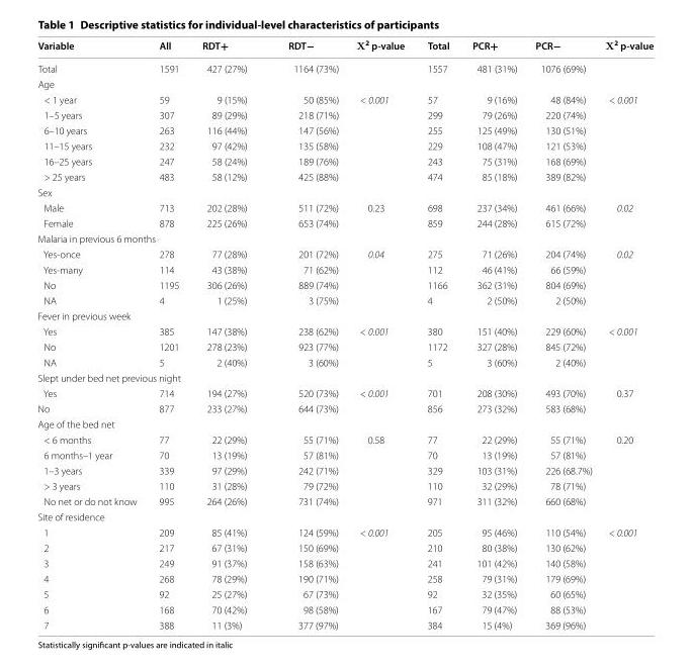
<table><thead><tr><td>Variable</td><td>All</td><td>RDT+</td><td>RDT−</td><td>Χ<sup>2</sup> p-value</td><td>Total</td><td>PCR+</td><td>PCR−</td><td>Χ<sup>2</sup> p-value</td></tr></thead><tbody><tr><td>Total</td><td>1591</td><td>427 (27%)</td><td>1164 (73%)</td><td></td><td>1557</td><td>481 (31%)</td><td>1076 (69%)</td><td></td></tr><tr><td colspan="9">Age</td></tr><tr><td>&lt; 1 year</td><td>59</td><td>9 (15%)</td><td>50 (85%)</td><td>&lt; 0.001</td><td>57</td><td>9 (16%)</td><td>48 (84%)</td><td>&lt; 0.001</td></tr><tr><td>1–5 years</td><td>307</td><td>89 (29%)</td><td>218 (71%)</td><td></td><td>299</td><td>79 (26%)</td><td>220 (74%)</td><td></td></tr><tr><td>6–10 years</td><td>263</td><td>116 (44%)</td><td>147 (56%)</td><td></td><td>255</td><td>125 (49%)</td><td>130 (51%)</td><td></td></tr><tr><td>11–15 years</td><td>232</td><td>97 (42%)</td><td>135 (58%)</td><td></td><td>229</td><td>108 (47%)</td><td>121 (53%)</td><td></td></tr><tr><td>16–25 years</td><td>247</td><td>58 (24%)</td><td>189 (76%)</td><td></td><td>243</td><td>75 (31%)</td><td>168 (69%)</td><td></td></tr><tr><td>&gt; 25 years</td><td>483</td><td>58 (12%)</td><td>425 (88%)</td><td></td><td>474</td><td>85 (18%)</td><td>389 (82%)</td><td></td></tr><tr><td colspan="9">Sex</td></tr><tr><td>Male</td><td>713</td><td>202 (28%)</td><td>511 (72%)</td><td>0.23</td><td>698</td><td>237 (34%)</td><td>461 (66%)</td><td>0.02</td></tr><tr><td>Female</td><td>878</td><td>225 (26%)</td><td>653 (74%)</td><td></td><td>859</td><td>244 (28%)</td><td>615 (72%)</td><td></td></tr><tr><td colspan="9">Malaria in previous 6 months</td></tr><tr><td>Yes-once</td><td>278</td><td>77 (28%)</td><td>201 (72%)</td><td>0.04</td><td>275</td><td>71 (26%)</td><td>204 (74%)</td><td>0.02</td></tr><tr><td>Yes-many</td><td>114</td><td>43 (38%)</td><td>71 (62%)</td><td></td><td>112</td><td>46 (41%)</td><td>66 (59%)</td><td></td></tr><tr><td>No</td><td>1195</td><td>306 (26%)</td><td>889 (74%)</td><td></td><td>1166</td><td>362 (31%)</td><td>804 (69%)</td><td></td></tr><tr><td>NA</td><td>4</td><td>1 (25%)</td><td>3 (75%)</td><td></td><td>4</td><td>2 (50%)</td><td>2 (50%)</td><td></td></tr><tr><td colspan="9">Fever in previous week</td></tr><tr><td>Yes</td><td>385</td><td>147 (38%)</td><td>238 (62%)</td><td>&lt; 0.001</td><td>380</td><td>151 (40%)</td><td>229 (60%)</td><td>&lt; 0.001</td></tr><tr><td>No</td><td>1201</td><td>278 (23%)</td><td>923 (77%)</td><td></td><td>1172</td><td>327 (28%)</td><td>845 (72%)</td><td></td></tr><tr><td>NA</td><td>5</td><td>2 (40%)</td><td>3 (60%)</td><td></td><td>5</td><td>3 (60%)</td><td>2 (40%)</td><td></td></tr><tr><td colspan="9">Slept under bed net previous night</td></tr><tr><td>Yes</td><td>714</td><td>194 (27%)</td><td>520 (73%)</td><td>&lt; 0.001</td><td>701</td><td>208 (30%)</td><td>493 (70%)</td><td>0.37</td></tr><tr><td>No</td><td>877</td><td>233 (27%)</td><td>644 (73%)</td><td></td><td>856</td><td>273 (32%)</td><td>583 (68%)</td><td></td></tr><tr><td colspan="9">Age of the bed net</td></tr><tr><td>&lt; 6 months</td><td>77</td><td>22 (29%)</td><td>55 (71%)</td><td>0.58</td><td>77</td><td>22 (29%)</td><td>55 (71%)</td><td>0.20</td></tr><tr><td>6 months–1 year</td><td>70</td><td>13 (19%)</td><td>57 (81%)</td><td></td><td>70</td><td>13 (19%)</td><td>57 (81%)</td><td></td></tr><tr><td>1–3 years</td><td>339</td><td>97 (29%)</td><td>242 (71%)</td><td></td><td>329</td><td>103 (31%)</td><td>226 (68.7%)</td><td></td></tr><tr><td>&gt; 3 years</td><td>110</td><td>31 (28%)</td><td>79 (72%)</td><td></td><td>110</td><td>32 (29%)</td><td>78 (71%)</td><td></td></tr><tr><td>No net or do not know</td><td>995</td><td>264 (26%)</td><td>731 (74%)</td><td></td><td>971</td><td>311 (32%)</td><td>660 (68%)</td><td></td></tr><tr><td colspan="9">Site of residence</td></tr><tr><td>1</td><td>209</td><td>85 (41%)</td><td>124 (59%)</td><td>&lt; 0.001</td><td>205</td><td>95 (46%)</td><td>110 (54%)</td><td>&lt; 0.001</td></tr><tr><td>2</td><td>217</td><td>67 (31%)</td><td>150 (69%)</td><td></td><td>210</td><td>80 (38%)</td><td>130 (62%)</td><td></td></tr><tr><td>3</td><td>249</td><td>91 (37%)</td><td>158 (63%)</td><td></td><td>241</td><td>101 (42%)</td><td>140 (58%)</td><td></td></tr><tr><td>4</td><td>268</td><td>78 (29%)</td><td>190 (71%)</td><td></td><td>258</td><td>79 (31%)</td><td>179 (69%)</td><td></td></tr><tr><td>5</td><td>92</td><td>25 (27%)</td><td>67 (73%)</td><td></td><td>92</td><td>32 (35%)</td><td>60 (65%)</td><td></td></tr><tr><td>6</td><td>168</td><td>70 (42%)</td><td>98 (58%)</td><td></td><td>167</td><td>79 (47%)</td><td>88 (53%)</td><td></td></tr><tr><td>7</td><td>388</td><td>11 (3%)</td><td>377 (97%)</td><td></td><td>384</td><td>15 (4%)</td><td>369 (96%)</td><td></td></tr></tbody></table>